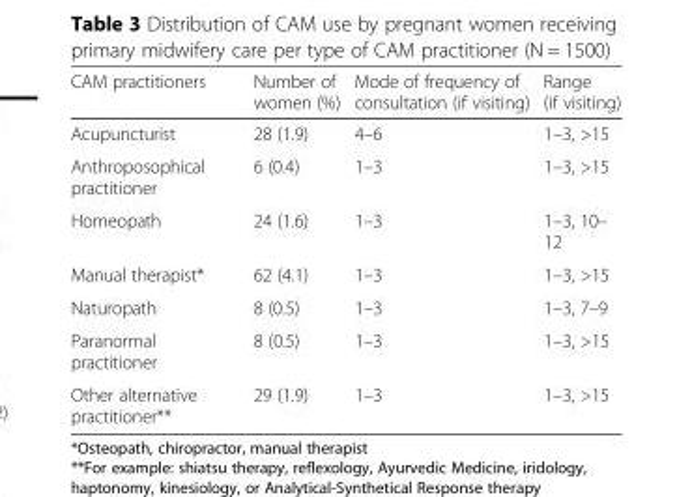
<table><thead><tr><td>CAM practitioners</td><td>Number of women (%)</td><td>Mode of frequency of consultation (if visiting)</td><td>Range (if visiting)</td></tr></thead><tbody><tr><td>Acupuncturist</td><td>28 (1.9)</td><td>4–6</td><td>1–3, &gt;15</td></tr><tr><td>Anthroposophical practitioner</td><td>6 (0.4)</td><td>1–3</td><td>1–3, &gt;15</td></tr><tr><td>Homeopath</td><td>24 (1.6)</td><td>1–3</td><td>1–3, 10– 12</td></tr><tr><td>Manual therapist*</td><td>62 (4.1)</td><td>1–3</td><td>1–3, &gt;15</td></tr><tr><td>Naturopath</td><td>8 (0.5)</td><td>1–3</td><td>1–3, 7–9</td></tr><tr><td>Paranormal practitioner</td><td>8 (0.5)</td><td>1–3</td><td>1–3, &gt;15</td></tr><tr><td>Other alternative practitioner**</td><td>29 (1.9)</td><td>1–3</td><td>1–3, &gt;15</td></tr></tbody></table>